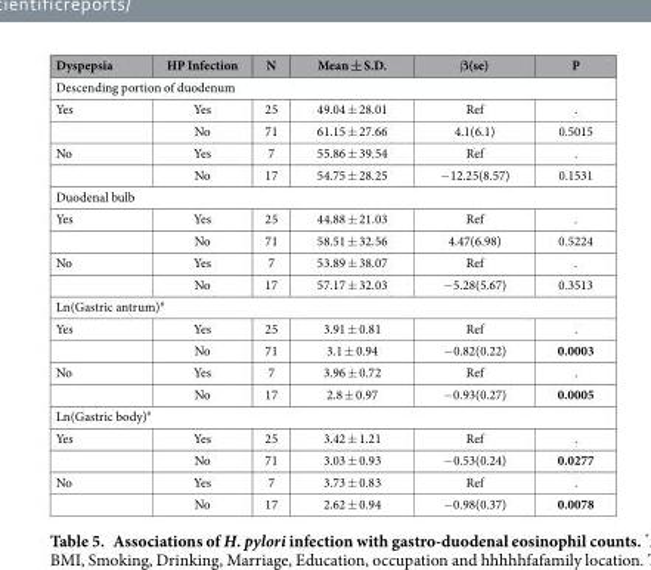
<table><thead><tr><td>Dyspepsia</td><td>HP Infection</td><td>N</td><td>Mean ± S.D.</td><td>β(se)</td><td>P</td></tr></thead><tbody><tr><td colspan="6">Descending portion of duodenum</td></tr><tr><td rowspan="2">Yes</td><td>Yes</td><td>25</td><td>49.04 ± 28.01</td><td>Ref</td><td>.</td></tr><tr><td>No</td><td>71</td><td>61.15 ± 27.66</td><td>4.1(6.1)</td><td>0.5015</td></tr><tr><td rowspan="2">No</td><td>Yes</td><td>7</td><td>55.86 ± 39.54</td><td>Ref</td><td>.</td></tr><tr><td>No</td><td>17</td><td>54.75 ± 28.25</td><td>− 12.25(8.57)</td><td>0.1531</td></tr><tr><td colspan="6">Duodenal bulb</td></tr><tr><td rowspan="2">Yes</td><td>Yes</td><td>25</td><td>44.88 ± 21.03</td><td>Ref</td><td>.</td></tr><tr><td>No</td><td>71</td><td>58.51 ± 32.56</td><td>4.47(6.98)</td><td>0.5224</td></tr><tr><td rowspan="2">No</td><td>Yes</td><td>7</td><td>53.89 ± 38.07</td><td>Ref</td><td>.</td></tr><tr><td>No</td><td>17</td><td>57.17 ± 32.03</td><td>− 5.28(5.67)</td><td>0.3513</td></tr><tr><td colspan="6">Ln(Gastric antrum)#</td></tr><tr><td rowspan="2">Yes</td><td>Yes</td><td>25</td><td>3.91 ± 0.81</td><td>Ref</td><td>.</td></tr><tr><td>No</td><td>71</td><td>3.1 ± 0.94</td><td>− 0.82(0.22)</td><td>0.0003</td></tr><tr><td rowspan="2">No</td><td>Yes</td><td>7</td><td>3.96 ± 0.72</td><td>Ref</td><td>.</td></tr><tr><td>No</td><td>17</td><td>2.8 ± 0.97</td><td>− 0.93(0.27)</td><td>0.0005</td></tr><tr><td colspan="6">Ln(Gastric body)#</td></tr><tr><td rowspan="2">Yes</td><td>Yes</td><td>25</td><td>3.42 ± 1.21</td><td>Ref</td><td>.</td></tr><tr><td>No</td><td>71</td><td>3.03 ± 0.93</td><td>− 0.53(0.24)</td><td>0.0277</td></tr><tr><td rowspan="2">No</td><td>Yes</td><td>7</td><td>3.73 ± 0.83</td><td>Ref</td><td>.</td></tr><tr><td>No</td><td>17</td><td>2.62 ± 0.94</td><td>− 0.98(0.37)</td><td>0.0078</td></tr></tbody></table>